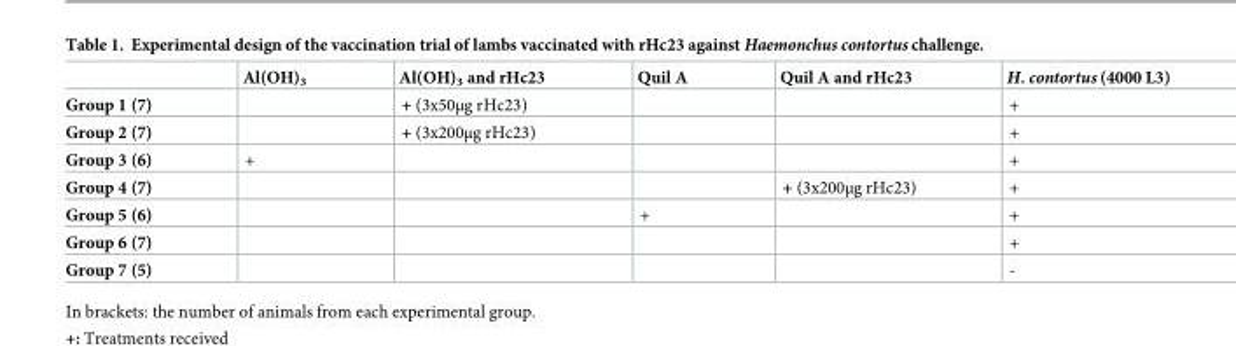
<table><thead><tr><td></td><td>Al(OH)<sub>3</sub></td><td>Al(OH)<sub>3</sub> and rHc23</td><td>Quil A</td><td>Quil A and rHc23</td><td>H. contortus (4000 L3)</td></tr></thead><tbody><tr><td>Group 1 (7)</td><td></td><td>+ (3x50μg rHc23)</td><td></td><td></td><td>+</td></tr><tr><td>Group 2 (7)</td><td></td><td>+ (3x200μg rHc23)</td><td></td><td></td><td>+</td></tr><tr><td>Group 3 (6)</td><td>+</td><td></td><td></td><td></td><td>+</td></tr><tr><td>Group 4 (7)</td><td></td><td></td><td></td><td>+ (3x200μg rHc23)</td><td>+</td></tr><tr><td>Group 5 (6)</td><td></td><td></td><td>+</td><td></td><td>+</td></tr><tr><td>Group 6 (7)</td><td></td><td></td><td></td><td></td><td>+</td></tr><tr><td>Group 7 (5)</td><td></td><td></td><td></td><td></td><td>-</td></tr></tbody></table>